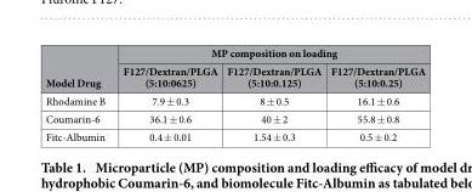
<table><thead><tr><td rowspan="2">Model Drug</td><td colspan="3">MP composition on loading</td></tr><tr><td>F127/Dextran/PLGA (5:10:0625)</td><td>F127/Dextran/PLGA (5:10:0.125)</td><td>F127/Dextran/PLGA (5:10:0.25)</td></tr></thead><tbody><tr><td>Rhodamine B</td><td>7.9 ± 0.3</td><td>8 ± 0.5</td><td>16.1 ± 0.6</td></tr><tr><td>Coumarin-6</td><td>36.1 ± 0.6</td><td>40 ± 2</td><td>55.8 ± 0.8</td></tr><tr><td>Fitc-Albumin</td><td>0.4 ± 0.01</td><td>1.54 ± 0.3</td><td>0.5 ± 0.2</td></tr></tbody></table>